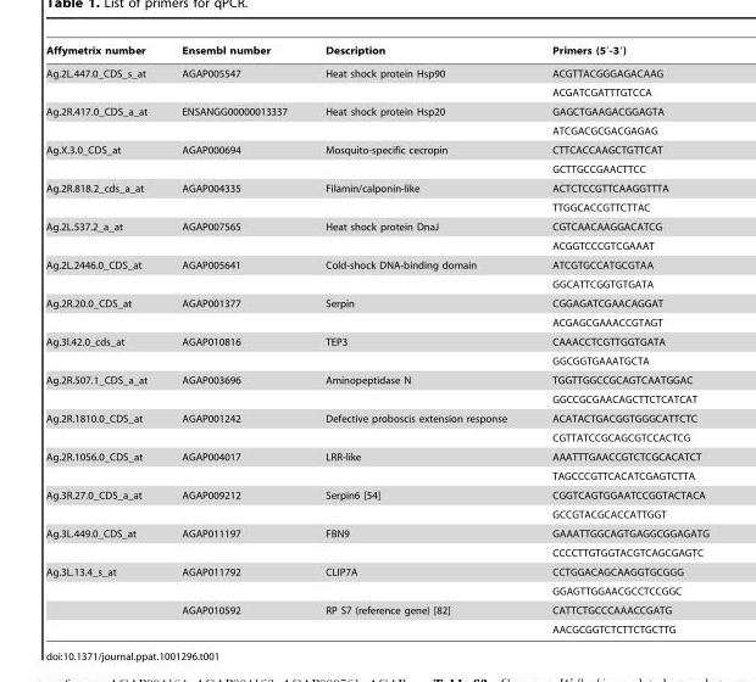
<table><thead><tr><td>Affymetrix number</td><td>Ensembl number</td><td>Description</td><td>Primers (5′-3′)</td></tr></thead><tbody><tr><td rowspan="2">Ag.2L.447.0_CDS_s_at</td><td>AGAP005547</td><td>Heat shock protein Hsp90</td><td>ACGTTACGGGAGACAAG</td></tr><tr><td></td><td></td><td>ACGATCGATTTGTCCA</td></tr><tr><td rowspan="2">Ag.2R.417.0_CDS_a_at</td><td>ENSANGG00000013337</td><td>Heat shock protein Hsp20</td><td>GAGCTGAAGACGGAGTA</td></tr><tr><td></td><td></td><td>ATCGACGCGACGAGAG</td></tr><tr><td rowspan="2">Ag.X.3.0_CDS_at</td><td>AGAP000694</td><td>Mosquito-specific cecropin</td><td>CTTCACCAAGCTGTTCAT</td></tr><tr><td></td><td></td><td>GCTTGCCGAACTTCC</td></tr><tr><td rowspan="2">Ag.2R.818.2_cds_a_at</td><td>AGAP004335</td><td>Filamin/calponin-like</td><td>ACTCTCCGTTCAAGGTTTA</td></tr><tr><td></td><td></td><td>TTGGCACCGTTCTTAC</td></tr><tr><td rowspan="2">Ag.2L.537.2_a_at</td><td>AGAP007565</td><td>Heat shock protein DnaJ</td><td>CGTCAACAAGGACATCG</td></tr><tr><td></td><td></td><td>ACGGTCCCGTCGAAAT</td></tr><tr><td rowspan="2">Ag.2L.2446.0_CDS_at</td><td>AGAP005641</td><td>Cold-shock DNA-binding domain</td><td>ATCGTGCCATGCGTAA</td></tr><tr><td></td><td></td><td>GGCATTCGGTGTGATA</td></tr><tr><td rowspan="2">Ag.2R.20.0_CDS_at</td><td>AGAP001377</td><td>Serpin</td><td>CGGAGATCGAACAGGAT</td></tr><tr><td></td><td></td><td>ACGAGCGAAACCGTAGT</td></tr><tr><td rowspan="2">Ag.3l.42.0_cds_at</td><td>AGAP010816</td><td>TEP3</td><td>CAAACCTCGTTGGTGATA</td></tr><tr><td></td><td></td><td>GGCGGTGAAATGCTA</td></tr><tr><td rowspan="2">Ag.2R.507.1_CDS_a_at</td><td>AGAP003696</td><td>Aminopeptidase N</td><td>TGGTTGGCCGCAGTCAATGGAC</td></tr><tr><td></td><td></td><td>GGCCGCGAACAGCTTCTCATCAT</td></tr><tr><td rowspan="2">Ag.2R.1810.0_CDS_at</td><td>AGAP001242</td><td>Defective proboscis extension response</td><td>ACATACTGACGGTGGGCATTCTC</td></tr><tr><td></td><td></td><td>CGTTATCCGCAGCGTCCACTCG</td></tr><tr><td rowspan="2">Ag.2R.1056.0_CDS_at</td><td>AGAP004017</td><td>LRR-like</td><td>AAATTTGAACCGTCTCGCACATCT</td></tr><tr><td></td><td></td><td>TAGCCCGTTCACATCGAGTCTTA</td></tr><tr><td rowspan="2">Ag.3R.27.0_CDS_a_at</td><td>AGAP009212</td><td>Serpin6 [54]</td><td>CGGTCAGTGGAATCCGGTACTACA</td></tr><tr><td></td><td></td><td>GCCGTACGCACCATTGGT</td></tr><tr><td rowspan="2">Ag.3L.449.0_CDS_at</td><td>AGAP011197</td><td>FBN9</td><td>GAAATTGGCAGTGAGGCGGAGATG</td></tr><tr><td></td><td></td><td>CCCCTTGTGGTACGTCAGCGAGTC</td></tr><tr><td rowspan="4">Ag.3L.13.4_s_at</td><td>AGAP011792</td><td>CLIP7A</td><td>CCTGGACAGCAAGGTGCGGG</td></tr><tr><td></td><td></td><td>GGAGTTGGAACGCCTCCGGC</td></tr><tr><td>AGAP010592</td><td>RP S7 (reference gene) [82]</td><td>CATTCTGCCCAAACCGATG</td></tr><tr><td></td><td></td><td>AACGCGGTCTCTTCTGCTTG</td></tr></tbody></table>